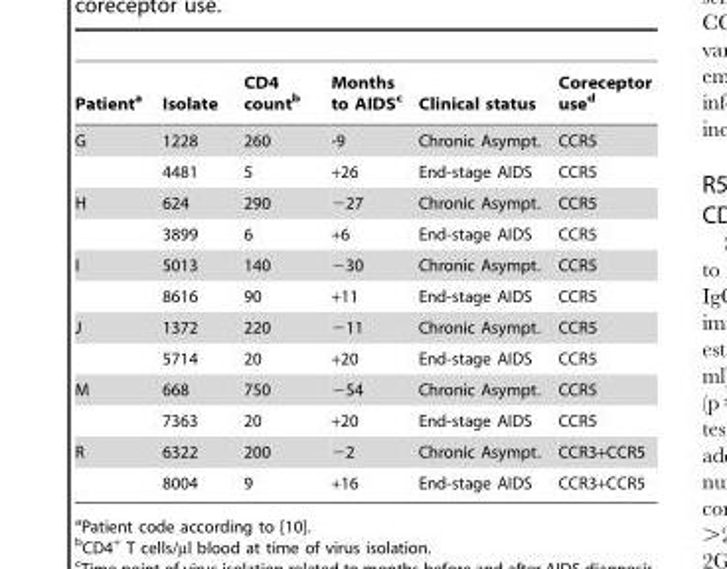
<table><thead><tr><td>Patient<sup>a</sup></td><td>Isolate</td><td>CD4 count<sup>b</sup></td><td>Months to AIDS<sup>c</sup></td><td>Clinical status</td><td>Coreceptor use<sup>d</sup></td></tr></thead><tbody><tr><td rowspan="2">G</td><td>1228</td><td>260</td><td>-9</td><td>Chronic Asympt.</td><td>CCR5</td></tr><tr><td>4481</td><td>5</td><td>+26</td><td>End-stage AIDS</td><td>CCR5</td></tr><tr><td rowspan="2">H</td><td>624</td><td>290</td><td>−27</td><td>Chronic Asympt.</td><td>CCR5</td></tr><tr><td>3899</td><td>6</td><td>+6</td><td>End-stage AIDS</td><td>CCR5</td></tr><tr><td rowspan="2">I</td><td>5013</td><td>140</td><td>−30</td><td>Chronic Asympt.</td><td>CCR5</td></tr><tr><td>8616</td><td>90</td><td>+11</td><td>End-stage AIDS</td><td>CCR5</td></tr><tr><td rowspan="2">J</td><td>1372</td><td>220</td><td>−11</td><td>Chronic Asympt.</td><td>CCR5</td></tr><tr><td>5714</td><td>20</td><td>+20</td><td>End-stage AIDS</td><td>CCR5</td></tr><tr><td rowspan="2">M</td><td>668</td><td>750</td><td>−54</td><td>Chronic Asympt.</td><td>CCR5</td></tr><tr><td>7363</td><td>20</td><td>+20</td><td>End-stage AIDS</td><td>CCR5</td></tr><tr><td rowspan="2">R</td><td>6322</td><td>200</td><td>−2</td><td>Chronic Asympt.</td><td>CCR3+CCR5</td></tr><tr><td>8004</td><td>9</td><td>+16</td><td>End-stage AIDS</td><td>CCR3+CCR5</td></tr></tbody></table>